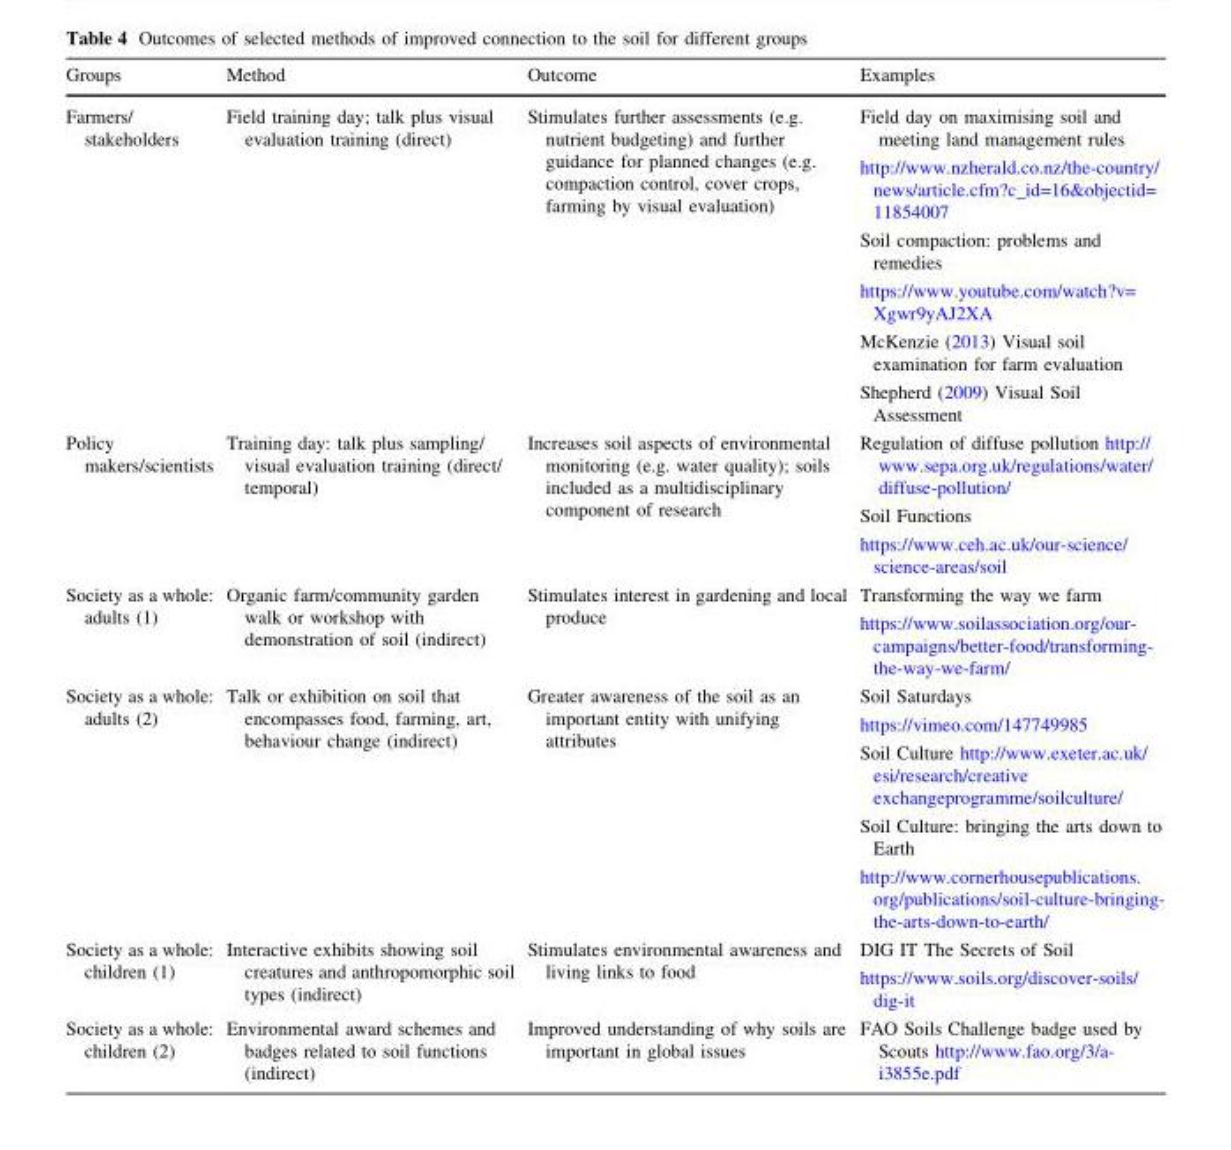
<table><thead><tr><td>Groups</td><td>Method</td><td>Outcome</td><td>Examples</td></tr></thead><tbody><tr><td>Farmers/ stakeholders</td><td>Field training day; talk plus visual evaluation training (direct)</td><td>Stimulates further assessments (e.g. nutrient budgeting) and further guidance for planned changes (e.g. compaction control, cover crops, farming by visual evaluation)</td><td>Field day on maximising soil and meeting land management rules http://www.nzherald.co.nz/the-country/ news/article.cfm?c_id=16&amp;objectid= 11854007 Soil compaction: problems and remedies https://www.youtube.com/watch?v= Xgwr9yAJ2XA McKenzie (2013) Visual soil examination for farm evaluation Shepherd (2009) Visual Soil Assessment</td></tr><tr><td>Policy makers/scientists</td><td>Training day: talk plus sampling/ visual evaluation training (direct/ temporal)</td><td>Increases soil aspects of environmental monitoring (e.g. water quality); soils included as a multidisciplinary component of research</td><td>Regulation of diffuse pollution http:// www.sepa.org.uk/regulations/water/ diffuse-pollution/ Soil Functions https://www.ceh.ac.uk/our-science/ science-areas/soil</td></tr><tr><td>Society as a whole: adults (1)</td><td>Organic farm/community garden walk or workshop with demonstration of soil (indirect)</td><td>Stimulates interest in gardening and local produce</td><td>Transforming the way we farm https://www.soilassociation.org/our- campaigns/better-food/transforming- the-way-we-farm/</td></tr><tr><td>Society as a whole: adults (2)</td><td>Talk or exhibition on soil that encompasses food, farming, art, behaviour change (indirect)</td><td>Greater awareness of the soil as an important entity with unifying attributes</td><td>Soil Saturdays https://vimeo.com/147749985 Soil Culture http://www.exeter.ac.uk/ esi/research/creative exchangeprogramme/soilculture/ Soil Culture: bringing the arts down to Earth http://www.cornerhousepublications. org/publications/soil-culture-bringing- the-arts-down-to-earth/</td></tr><tr><td>Society as a whole: children (1)</td><td>Interactive exhibits showing soil creatures and anthropomorphic soil types (indirect)</td><td>Stimulates environmental awareness and living links to food</td><td>DIG IT The Secrets of Soil https://www.soils.org/discover-soils/ dig-it</td></tr><tr><td>Society as a whole: children (2)</td><td>Environmental award schemes and badges related to soil functions (indirect)</td><td>Improved understanding of why soils are important in global issues</td><td>FAO Soils Challenge badge used by Scouts http://www.fao.org/3/a- i3855e.pdf</td></tr></tbody></table>